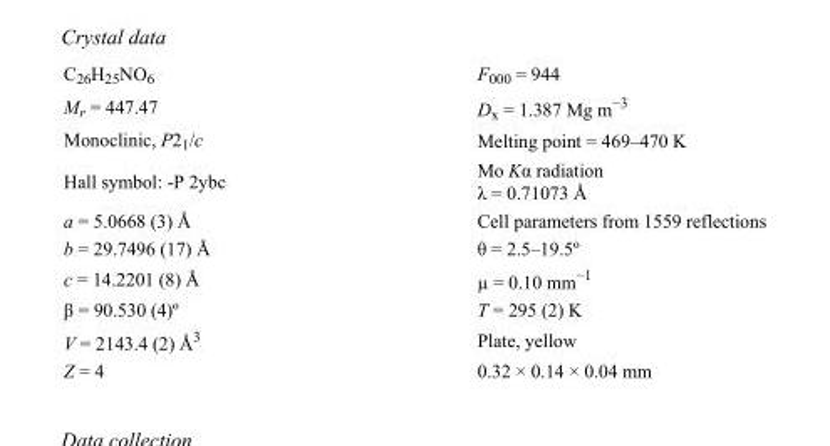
<table><tbody><tr><td>C<sub>26</sub>H<sub>25</sub>NO<sub>6</sub></td><td>F000 = 944</td></tr><tr><td>M<sub>r</sub> = 447.47</td><td>D<sub>x</sub> = 1.387 Mg m<sup>−3</sup></td></tr><tr><td>Monoclinic, P2<sub>1</sub>/c</td><td>Melting point = 469–470 K</td></tr><tr><td>Hall symbol: -P 2ybc</td><td>Mo Kα radiation λ = 0.71073 Å</td></tr><tr><td>a = 5.0668 (3) Å</td><td>Cell parameters from 1559 reflections</td></tr><tr><td>b = 29.7496 (17) Å</td><td>θ = 2.5–19.5º</td></tr><tr><td>c = 14.2201 (8) Å</td><td>µ = 0.10 mm<sup>−1</sup></td></tr><tr><td>β = 90.530 (4)º</td><td>T = 295 (2) K</td></tr><tr><td>V = 2143.4 (2) Å<sup>3</sup></td><td>Plate, yellow</td></tr><tr><td>Z = 4</td><td>0.32 × 0.14 × 0.04 mm</td></tr></tbody></table>